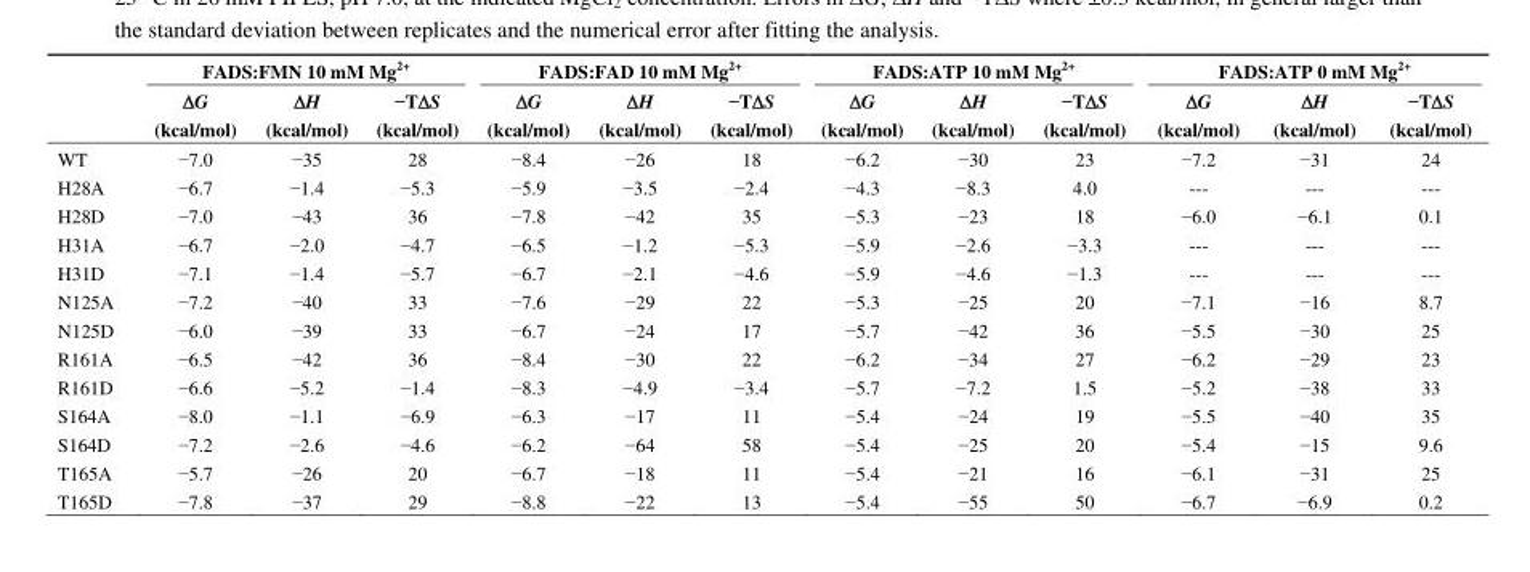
<table><thead><tr><td rowspan="2"></td><td colspan="3">FADS:FMN 10 mM Mg<sup>2+</sup></td><td colspan="3">FADS:FAD 10 mM Mg<sup>2+</sup></td><td colspan="3">FADS:ATP 10 mM Mg<sup>2+</sup></td><td colspan="3">FADS:ATP 0 mM Mg<sup>2+</sup></td></tr><tr><td>ΔG (kcal/mol)</td><td>ΔH (kcal/mol)</td><td>−TΔS (kcal/mol)</td><td>ΔG (kcal/mol)</td><td>ΔH (kcal/mol)</td><td>−TΔS (kcal/mol)</td><td>ΔG (kcal/mol)</td><td>ΔH (kcal/mol)</td><td>−TΔS (kcal/mol)</td><td>ΔG (kcal/mol)</td><td>ΔH (kcal/mol)</td><td>−TΔS (kcal/mol)</td></tr></thead><tbody><tr><td>WT</td><td>−7.0</td><td>−35</td><td>28</td><td>−8.4</td><td>−26</td><td>18</td><td>−6.2</td><td>−30</td><td>23</td><td>−7.2</td><td>−31</td><td>24</td></tr><tr><td>H28A</td><td>−6.7</td><td>−1.4</td><td>−5.3</td><td>−5.9</td><td>−3.5</td><td>−2.4</td><td>−4.3</td><td>−8.3</td><td>4.0</td><td>---</td><td>---</td><td>---</td></tr><tr><td>H28D</td><td>−7.0</td><td>−43</td><td>36</td><td>−7.8</td><td>−42</td><td>35</td><td>−5.3</td><td>−23</td><td>18</td><td>−6.0</td><td>−6.1</td><td>0.1</td></tr><tr><td>H31A</td><td>−6.7</td><td>−2.0</td><td>−4.7</td><td>−6.5</td><td>−1.2</td><td>−5.3</td><td>−5.9</td><td>−2.6</td><td>−3.3</td><td>---</td><td>---</td><td>---</td></tr><tr><td>H31D</td><td>−7.1</td><td>−1.4</td><td>−5.7</td><td>−6.7</td><td>−2.1</td><td>−4.6</td><td>−5.9</td><td>−4.6</td><td>−1.3</td><td>---</td><td>---</td><td>---</td></tr><tr><td>N125A</td><td>−7.2</td><td>−40</td><td>33</td><td>−7.6</td><td>−29</td><td>22</td><td>−5.3</td><td>−25</td><td>20</td><td>−7.1</td><td>−16</td><td>8.7</td></tr><tr><td>N125D</td><td>−6.0</td><td>−39</td><td>33</td><td>−6.7</td><td>−24</td><td>17</td><td>−5.7</td><td>−42</td><td>36</td><td>−5.5</td><td>−30</td><td>25</td></tr><tr><td>R161A</td><td>−6.5</td><td>−42</td><td>36</td><td>−8.4</td><td>−30</td><td>22</td><td>−6.2</td><td>−34</td><td>27</td><td>−6.2</td><td>−29</td><td>23</td></tr><tr><td>R161D</td><td>−6.6</td><td>−5.2</td><td>−1.4</td><td>−8.3</td><td>−4.9</td><td>−3.4</td><td>−5.7</td><td>−7.2</td><td>1.5</td><td>−5.2</td><td>−38</td><td>33</td></tr><tr><td>S164A</td><td>−8.0</td><td>−1.1</td><td>−6.9</td><td>−6.3</td><td>−17</td><td>11</td><td>−5.4</td><td>−24</td><td>19</td><td>−5.5</td><td>−40</td><td>35</td></tr><tr><td>S164D</td><td>−7.2</td><td>−2.6</td><td>−4.6</td><td>−6.2</td><td>−64</td><td>58</td><td>−5.4</td><td>−25</td><td>20</td><td>−5.4</td><td>−15</td><td>9.6</td></tr><tr><td>T165A</td><td>−5.7</td><td>−26</td><td>20</td><td>−6.7</td><td>−18</td><td>11</td><td>−5.4</td><td>−21</td><td>16</td><td>−6.1</td><td>−31</td><td>25</td></tr><tr><td>T165D</td><td>−7.8</td><td>−37</td><td>29</td><td>−8.8</td><td>−22</td><td>13</td><td>−5.4</td><td>−55</td><td>50</td><td>−6.7</td><td>−6.9</td><td>0.2</td></tr></tbody></table>